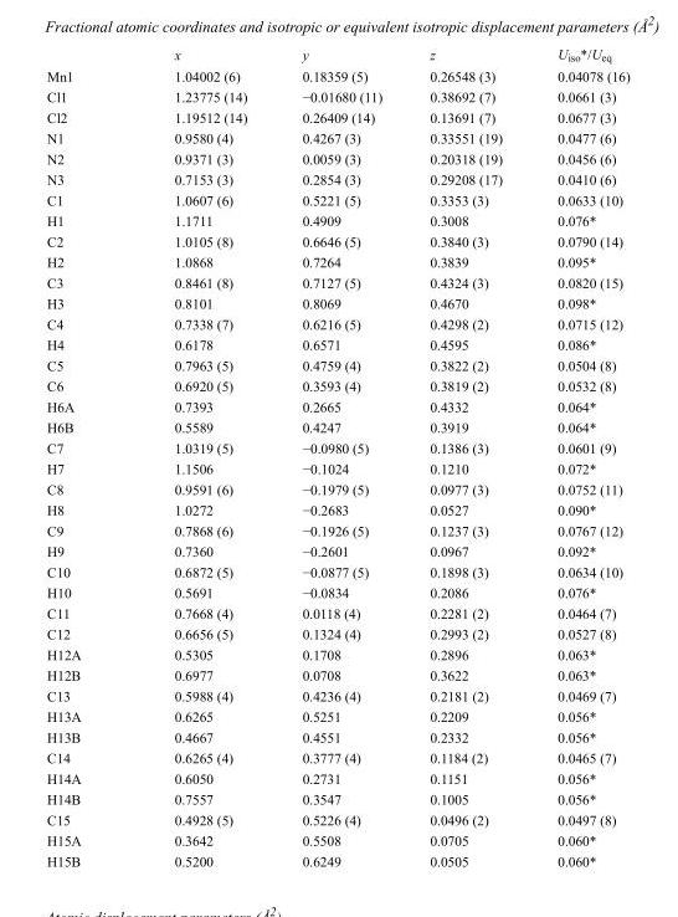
<table><thead><tr><td></td><td>x</td><td>y</td><td>z</td><td>U<sub>iso</sub>*/U<sub>eq</sub></td></tr></thead><tbody><tr><td>Mn1</td><td>1.04002 (6)</td><td>0.18359 (5)</td><td>0.26548 (3)</td><td>0.04078 (16)</td></tr><tr><td>Cl1</td><td>1.23775 (14)</td><td>−0.01680 (11)</td><td>0.38692 (7)</td><td>0.0661 (3)</td></tr><tr><td>Cl2</td><td>1.19512 (14)</td><td>0.26409 (14)</td><td>0.13691 (7)</td><td>0.0677 (3)</td></tr><tr><td>N1</td><td>0.9580 (4)</td><td>0.4267 (3)</td><td>0.33551 (19)</td><td>0.0477 (6)</td></tr><tr><td>N2</td><td>0.9371 (3)</td><td>0.0059 (3)</td><td>0.20318 (19)</td><td>0.0456 (6)</td></tr><tr><td>N3</td><td>0.7153 (3)</td><td>0.2854 (3)</td><td>0.29208 (17)</td><td>0.0410 (6)</td></tr><tr><td>C1</td><td>1.0607 (6)</td><td>0.5221 (5)</td><td>0.3353 (3)</td><td>0.0633 (10)</td></tr><tr><td>H1</td><td>1.1711</td><td>0.4909</td><td>0.3008</td><td>0.076*</td></tr><tr><td>C2</td><td>1.0105 (8)</td><td>0.6646 (5)</td><td>0.3840 (3)</td><td>0.0790 (14)</td></tr><tr><td>H2</td><td>1.0868</td><td>0.7264</td><td>0.3839</td><td>0.095*</td></tr><tr><td>C3</td><td>0.8461 (8)</td><td>0.7127 (5)</td><td>0.4324 (3)</td><td>0.0820 (15)</td></tr><tr><td>H3</td><td>0.8101</td><td>0.8069</td><td>0.4670</td><td>0.098*</td></tr><tr><td>C4</td><td>0.7338 (7)</td><td>0.6216 (5)</td><td>0.4298 (2)</td><td>0.0715 (12)</td></tr><tr><td>H4</td><td>0.6178</td><td>0.6571</td><td>0.4595</td><td>0.086*</td></tr><tr><td>C5</td><td>0.7963 (5)</td><td>0.4759 (4)</td><td>0.3822 (2)</td><td>0.0504 (8)</td></tr><tr><td>C6</td><td>0.6920 (5)</td><td>0.3593 (4)</td><td>0.3819 (2)</td><td>0.0532 (8)</td></tr><tr><td>H6A</td><td>0.7393</td><td>0.2665</td><td>0.4332</td><td>0.064*</td></tr><tr><td>H6B</td><td>0.5589</td><td>0.4247</td><td>0.3919</td><td>0.064*</td></tr><tr><td>C7</td><td>1.0319 (5)</td><td>−0.0980 (5)</td><td>0.1386 (3)</td><td>0.0601 (9)</td></tr><tr><td>H7</td><td>1.1506</td><td>−0.1024</td><td>0.1210</td><td>0.072*</td></tr><tr><td>C8</td><td>0.9591 (6)</td><td>−0.1979 (5)</td><td>0.0977 (3)</td><td>0.0752 (11)</td></tr><tr><td>H8</td><td>1.0272</td><td>−0.2683</td><td>0.0527</td><td>0.090*</td></tr><tr><td>C9</td><td>0.7868 (6)</td><td>−0.1926 (5)</td><td>0.1237 (3)</td><td>0.0767 (12)</td></tr><tr><td>H9</td><td>0.7360</td><td>−0.2601</td><td>0.0967</td><td>0.092*</td></tr><tr><td>C10</td><td>0.6872 (5)</td><td>−0.0877 (5)</td><td>0.1898 (3)</td><td>0.0634 (10)</td></tr><tr><td>H10</td><td>0.5691</td><td>−0.0834</td><td>0.2086</td><td>0.076*</td></tr><tr><td>C11</td><td>0.7668 (4)</td><td>0.0118 (4)</td><td>0.2281 (2)</td><td>0.0464 (7)</td></tr><tr><td>C12</td><td>0.6656 (5)</td><td>0.1324 (4)</td><td>0.2993 (2)</td><td>0.0527 (8)</td></tr><tr><td>H12A</td><td>0.5305</td><td>0.1708</td><td>0.2896</td><td>0.063*</td></tr><tr><td>H12B</td><td>0.6977</td><td>0.0708</td><td>0.3622</td><td>0.063*</td></tr><tr><td>C13</td><td>0.5988 (4)</td><td>0.4236 (4)</td><td>0.2181 (2)</td><td>0.0469 (7)</td></tr><tr><td>H13A</td><td>0.6265</td><td>0.5251</td><td>0.2209</td><td>0.056*</td></tr><tr><td>H13B</td><td>0.4667</td><td>0.4551</td><td>0.2332</td><td>0.056*</td></tr><tr><td>C14</td><td>0.6265 (4)</td><td>0.3777 (4)</td><td>0.1184 (2)</td><td>0.0465 (7)</td></tr><tr><td>H14A</td><td>0.6050</td><td>0.2731</td><td>0.1151</td><td>0.056*</td></tr><tr><td>H14B</td><td>0.7557</td><td>0.3547</td><td>0.1005</td><td>0.056*</td></tr><tr><td>C15</td><td>0.4928 (5)</td><td>0.5226 (4)</td><td>0.0496 (2)</td><td>0.0497 (8)</td></tr><tr><td>H15A</td><td>0.3642</td><td>0.5508</td><td>0.0705</td><td>0.060*</td></tr><tr><td>H15B</td><td>0.5200</td><td>0.6249</td><td>0.0505</td><td>0.060*</td></tr></tbody></table>